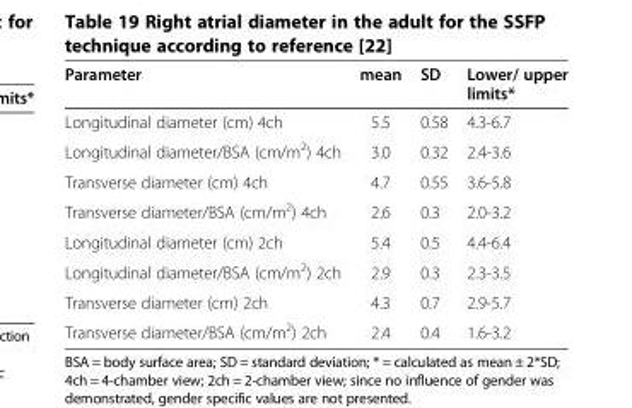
<table><thead><tr><td>Parameter</td><td>mean</td><td>SD</td><td>Lower/ upper limits*</td></tr></thead><tbody><tr><td>Longitudinal diameter (cm) 4ch</td><td>5.5</td><td>0.58</td><td>4.3-6.7</td></tr><tr><td>Longitudinal diameter/BSA (cm/m<sup>2</sup>) 4ch</td><td>3.0</td><td>0.32</td><td>2.4-3.6</td></tr><tr><td>Transverse diameter (cm) 4ch</td><td>4.7</td><td>0.55</td><td>3.6-5.8</td></tr><tr><td>Transverse diameter/BSA (cm/m<sup>2</sup>) 4ch</td><td>2.6</td><td>0.3</td><td>2.0-3.2</td></tr><tr><td>Longitudinal diameter (cm) 2ch</td><td>5.4</td><td>0.5</td><td>4.4-6.4</td></tr><tr><td>Longitudinal diameter/BSA (cm/m<sup>2</sup>) 2ch</td><td>2.9</td><td>0.3</td><td>2.3-3.5</td></tr><tr><td>Transverse diameter (cm) 2ch</td><td>4.3</td><td>0.7</td><td>2.9-5.7</td></tr><tr><td>Transverse diameter/BSA (cm/m<sup>2</sup>) 2ch</td><td>2.4</td><td>0.4</td><td>1.6-3.2</td></tr></tbody></table>